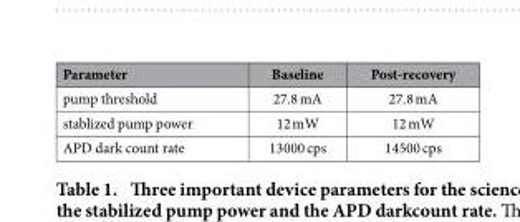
<table><thead><tr><td>Parameter</td><td>Baseline</td><td>Post-recovery</td></tr></thead><tbody><tr><td>pump threshold</td><td>27.8 mA</td><td>27.8 mA</td></tr><tr><td>stablized pump power</td><td>12 mW</td><td>12 mW</td></tr><tr><td>APD dark count rate</td><td>13000 cps</td><td>14500 cps</td></tr></tbody></table>